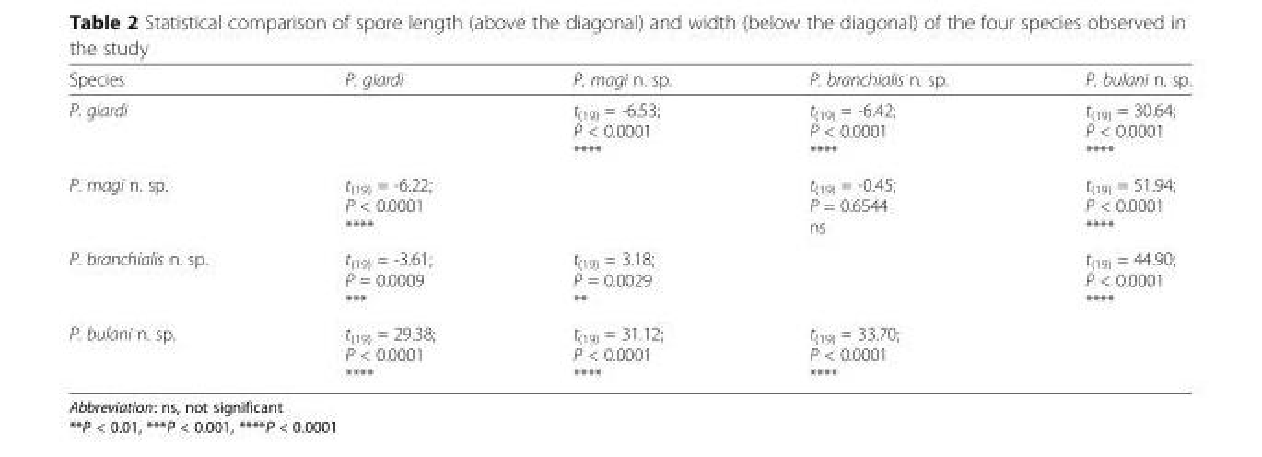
<table><thead><tr><td>Species</td><td>P. giardi</td><td>P. magi n. sp.</td><td>P. branchialis n. sp.</td><td>P. bulani n. sp.</td></tr></thead><tbody><tr><td>P. giardi</td><td></td><td>t<sub>(19)</sub> = -6.53; P &lt; 0.0001 ****</td><td>t<sub>(19)</sub> = -6.42; P &lt; 0.0001 ****</td><td>t<sub>(19)</sub> = 30.64; P &lt; 0.0001 ****</td></tr><tr><td>P. magi n. sp.</td><td>t<sub>(19)</sub> = -6.22; P &lt; 0.0001 ****</td><td></td><td>t<sub>(19)</sub> = -0.45; P = 0.6544 ns</td><td>t<sub>(19)</sub> = 51.94; P &lt; 0.0001 ****</td></tr><tr><td>P. branchialis n. sp.</td><td>t<sub>(19)</sub> = -3.61; P = 0.0009 ***</td><td>t<sub>(19)</sub> = 3.18; P = 0.0029 **</td><td></td><td>t<sub>(19)</sub> = 44.90; P &lt; 0.0001 ****</td></tr><tr><td>P. bulani n. sp.</td><td>t<sub>(19)</sub> = 29.38; P &lt; 0.0001 ****</td><td>t<sub>(19)</sub> = 31.12; P &lt; 0.0001 ****</td><td>t<sub>(19)</sub> = 33.70; P &lt; 0.0001 ****</td><td></td></tr></tbody></table>